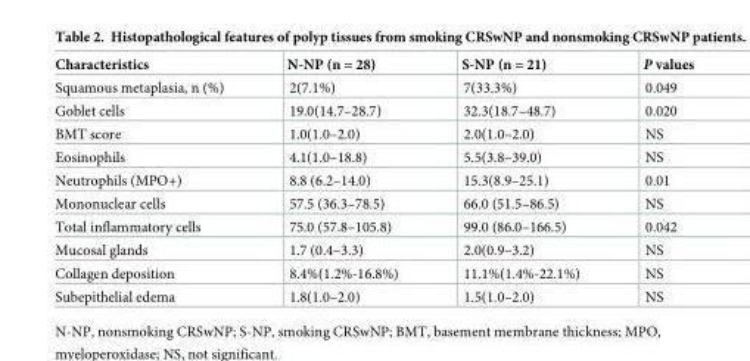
<table><thead><tr><td>Characteristics</td><td>N-NP (n = 28)</td><td>S-NP (n = 21)</td><td>P values</td></tr></thead><tbody><tr><td>Squamous metaplasia, n (%)</td><td>2(7.1%)</td><td>7(33.3%)</td><td>0.049</td></tr><tr><td>Goblet cells</td><td>19.0(14.7–28.7)</td><td>32.3(18.7–48.7)</td><td>0.020</td></tr><tr><td>BMT score</td><td>1.0(1.0–2.0)</td><td>2.0(1.0–2.0)</td><td>NS</td></tr><tr><td>Eosinophils</td><td>4.1(1.0–18.8)</td><td>5.5(3.8–39.0)</td><td>NS</td></tr><tr><td>Neutrophils (MPO+)</td><td>8.8 (6.2–14.0)</td><td>15.3(8.9–25.1)</td><td>0.01</td></tr><tr><td>Mononuclear cells</td><td>57.5 (36.3–78.5)</td><td>66.0 (51.5–86.5)</td><td>NS</td></tr><tr><td>Total inflammatory cells</td><td>75.0 (57.8–105.8)</td><td>99.0 (86.0–166.5)</td><td>0.042</td></tr><tr><td>Mucosal glands</td><td>1.7 (0.4–3.3)</td><td>2.0(0.9–3.2)</td><td>NS</td></tr><tr><td>Collagen deposition</td><td>8.4%(1.2%-16.8%)</td><td>11.1%(1.4%-22.1%)</td><td>NS</td></tr><tr><td>Subepithelial edema</td><td>1.8(1.0–2.0)</td><td>1.5(1.0–2.0)</td><td>NS</td></tr></tbody></table>